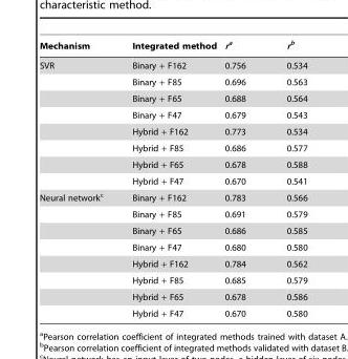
<table><thead><tr><td>Mechanism</td><td>Integrated method</td><td>ra</td><td>rb</td></tr></thead><tbody><tr><td rowspan="8">SVR</td><td>Binary + F162</td><td>0.756</td><td>0.534</td></tr><tr><td>Binary + F85</td><td>0.696</td><td>0.563</td></tr><tr><td>Binary + F65</td><td>0.688</td><td>0.564</td></tr><tr><td>Binary + F47</td><td>0.679</td><td>0.543</td></tr><tr><td>Hybrid + F162</td><td>0.773</td><td>0.534</td></tr><tr><td>Hybrid + F85</td><td>0.686</td><td>0.577</td></tr><tr><td>Hybrid + F65</td><td>0.678</td><td>0.588</td></tr><tr><td>Hybrid + F47</td><td>0.670</td><td>0.541</td></tr><tr><td rowspan="8">Neural network<sup>c</sup></td><td>Binary + F162</td><td>0.783</td><td>0.566</td></tr><tr><td>Binary + F85</td><td>0.691</td><td>0.579</td></tr><tr><td>Binary + F65</td><td>0.686</td><td>0.585</td></tr><tr><td>Binary + F47</td><td>0.680</td><td>0.580</td></tr><tr><td>Hybrid + F162</td><td>0.784</td><td>0.562</td></tr><tr><td>Hybrid + F85</td><td>0.685</td><td>0.579</td></tr><tr><td>Hybrid + F65</td><td>0.678</td><td>0.586</td></tr><tr><td>Hybrid + F47</td><td>0.670</td><td>0.580</td></tr></tbody></table>